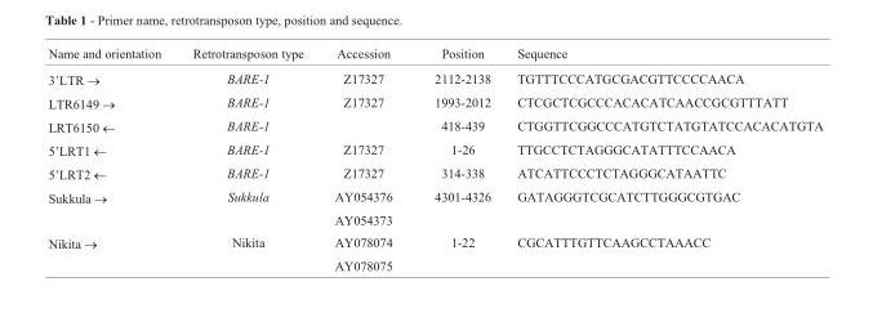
<table><thead><tr><td>Name and orientation</td><td>Retrotransposon type</td><td>Accession</td><td>Position</td><td>Sequence</td></tr></thead><tbody><tr><td>3’LTR →</td><td>BARE-1</td><td>Z17327</td><td>2112-2138</td><td>TGTTTCCCATGCGACGTTCCCCAACA</td></tr><tr><td>LTR6149 →</td><td>BARE-1</td><td>Z17327</td><td>1993-2012</td><td>CTCGCTCGCCCACACATCAACCGCGTTTATT</td></tr><tr><td>LRT6150 ←</td><td>BARE-1</td><td></td><td>418-439</td><td>CTGGTTCGGCCCATGTCTATGTATCCACACATGTA</td></tr><tr><td>5’LRT1 ←</td><td>BARE-1</td><td>Z17327</td><td>1-26</td><td>TTGCCTCTAGGGCATATTTCCAACA</td></tr><tr><td>5’LRT2 ←</td><td>BARE-1</td><td>Z17327</td><td>314-338</td><td>ATCATTCCCTCTAGGGCATAATTC</td></tr><tr><td rowspan="2">Sukkula →</td><td>Sukkula</td><td>AY054376</td><td>4301-4326</td><td>GATAGGGTCGCATCTTGGGCGTGAC</td></tr><tr><td></td><td>AY054373</td><td></td><td></td></tr><tr><td rowspan="2">Nikita →</td><td>Nikita</td><td>AY078074</td><td>1-22</td><td>CGCATTTGTTCAAGCCTAAACC</td></tr><tr><td></td><td>AY078075</td><td></td><td></td></tr></tbody></table>